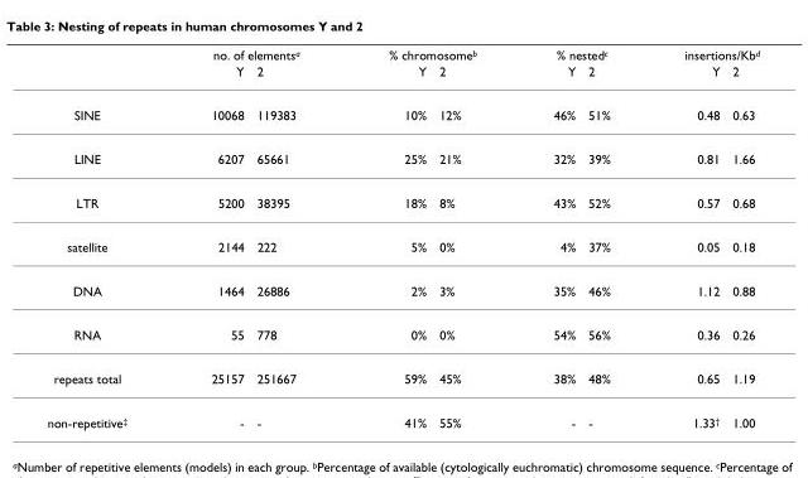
<table><thead><tr><td rowspan="2"></td><td colspan="2">no. of elements<sup>a</sup></td><td colspan="2">% chromosome<sup>b</sup></td><td colspan="2">% nested<sup>c</sup></td><td colspan="2">insertions/Kb<sup>d</sup></td></tr><tr><td>Y</td><td>2</td><td>Y</td><td>2</td><td>Y</td><td>2</td><td>Y</td><td>2</td></tr></thead><tbody><tr><td>SINE</td><td>10068</td><td>119383</td><td>10%</td><td>12%</td><td>46%</td><td>51%</td><td>0.48</td><td>0.63</td></tr><tr><td>LINE</td><td>6207</td><td>65661</td><td>25%</td><td>21%</td><td>32%</td><td>39%</td><td>0.81</td><td>1.66</td></tr><tr><td>LTR</td><td>5200</td><td>38395</td><td>18%</td><td>8%</td><td>43%</td><td>52%</td><td>0.57</td><td>0.68</td></tr><tr><td>satellite</td><td>2144</td><td>222</td><td>5%</td><td>0%</td><td>4%</td><td>37%</td><td>0.05</td><td>0.18</td></tr><tr><td>DNA</td><td>1464</td><td>26886</td><td>2%</td><td>3%</td><td>35%</td><td>46%</td><td>1.12</td><td>0.88</td></tr><tr><td>RNA</td><td>55</td><td>778</td><td>0%</td><td>0%</td><td>54%</td><td>56%</td><td>0.36</td><td>0.26</td></tr><tr><td>repeats total</td><td>25157</td><td>251667</td><td>59%</td><td>45%</td><td>38%</td><td>48%</td><td>0.65</td><td>1.19</td></tr><tr><td>non-repetitive<sup>‡</sup></td><td>-</td><td>-</td><td>41%</td><td>55%</td><td>-</td><td>-</td><td>1.33<sup>†</sup></td><td>1.00</td></tr></tbody></table>